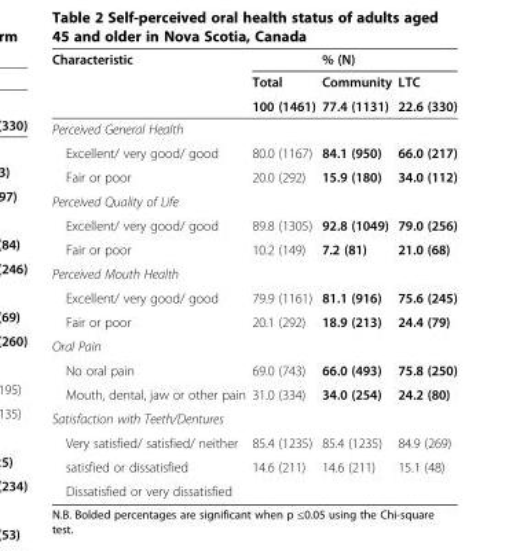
<table><thead><tr><td rowspan="2">Characteristic</td><td rowspan="2">Total</td><td colspan="2">% (N)</td></tr><tr><td>Community</td><td>LTC</td></tr></thead><tbody><tr><td></td><td>100 (1461)</td><td>77.4 (1131)</td><td>22.6 (330)</td></tr><tr><td colspan="4">Perceived General Health</td></tr><tr><td>Excellent/ very good/ good</td><td>80.0 (1167)</td><td>84.1 (950)</td><td>66.0 (217)</td></tr><tr><td>Fair or poor</td><td>20.0 (292)</td><td>15.9 (180)</td><td>34.0 (112)</td></tr><tr><td colspan="4">Perceived Quality of Life</td></tr><tr><td>Excellent/ very good/ good</td><td>89.8 (1305)</td><td>92.8 (1049)</td><td>79.0 (256)</td></tr><tr><td>Fair or poor</td><td>10.2 (149)</td><td>7.2 (81)</td><td>21.0 (68)</td></tr><tr><td colspan="4">Perceived Mouth Health</td></tr><tr><td>Excellent/ very good/ good</td><td>79.9 (1161)</td><td>81.1 (916)</td><td>75.6 (245)</td></tr><tr><td>Fair or poor</td><td>20.1 (292)</td><td>18.9 (213)</td><td>24.4 (79)</td></tr><tr><td colspan="4">Oral Pain</td></tr><tr><td>No oral pain</td><td>69.0 (743)</td><td>66.0 (493)</td><td>75.8 (250)</td></tr><tr><td>Mouth, dental, jaw or other pain</td><td>31.0 (334)</td><td>34.0 (254)</td><td>24.2 (80)</td></tr><tr><td colspan="4">Satisfaction with Teeth/Dentures</td></tr><tr><td>Very satisfied/ satisfied/ neither</td><td>85.4 (1235)</td><td>85.4 (1235)</td><td>84.9 (269)</td></tr><tr><td>satisfied or dissatisfied</td><td>14.6 (211)</td><td>14.6 (211)</td><td>15.1 (48)</td></tr><tr><td>Dissatisfied or very dissatisfied</td><td></td><td></td><td></td></tr></tbody></table>